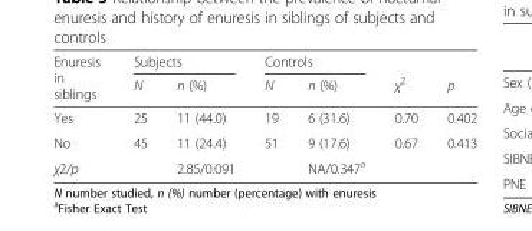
<table><thead><tr><td rowspan="2">Enuresis in siblings</td><td colspan="2">Subjects</td><td colspan="2">Controls</td><td rowspan="2">χ<sup>2</sup></td><td rowspan="2">p</td></tr><tr><td>N</td><td>n (%)</td><td>N</td><td>n (%)</td></tr></thead><tbody><tr><td>Yes</td><td>25</td><td>11 (44.0)</td><td>19</td><td>6 (31.6)</td><td>0.70</td><td>0.402</td></tr><tr><td>No</td><td>45</td><td>11 (24.4)</td><td>51</td><td>9 (17.6)</td><td>0.67</td><td>0.413</td></tr><tr><td>χ2/p</td><td></td><td>2.85/0.091</td><td></td><td>NA/0.347<sup>a</sup></td><td></td><td></td></tr></tbody></table>